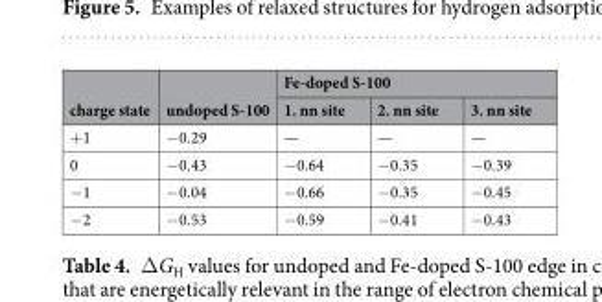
<table><thead><tr><td rowspan="2">charge state</td><td rowspan="2">undoped S-100</td><td colspan="3">Fe-doped S-100</td></tr><tr><td>1. nn site</td><td>2. nn site</td><td>3. nn site</td></tr></thead><tbody><tr><td>+1</td><td>−0.29</td><td>—</td><td>—</td><td>—</td></tr><tr><td>0</td><td>−0.43</td><td>−0.64</td><td>−0.35</td><td>−0.39</td></tr><tr><td>−1</td><td>−0.04</td><td>−0.66</td><td>−0.35</td><td>−0.45</td></tr><tr><td>−2</td><td>−0.53</td><td>−0.59</td><td>−0.41</td><td>−0.43</td></tr></tbody></table>